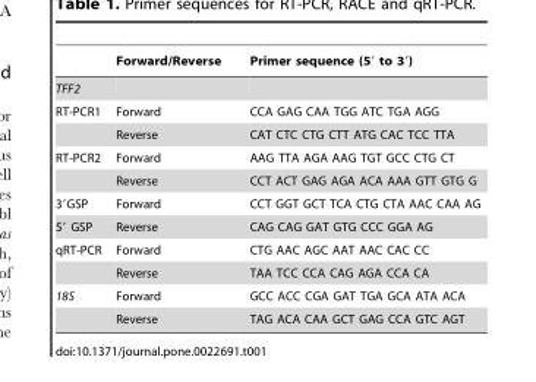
<table><thead><tr><td></td><td>Forward/Reverse</td><td>Primer sequence (5′ to 3′)</td></tr></thead><tbody><tr><td colspan="3">TFF2</td></tr><tr><td rowspan="2">RT-PCR1</td><td>Forward</td><td>CCA GAG CAA TGG ATC TGA AGG</td></tr><tr><td>Reverse</td><td>CAT CTC CTG CTT ATG CAC TCC TTA</td></tr><tr><td rowspan="2">RT-PCR2</td><td>Forward</td><td>AAG TTA AGA AAG TGT GCC CTG CT</td></tr><tr><td>Reverse</td><td>CCT ACT GAG AGA ACA AAA GTT GTG G</td></tr><tr><td>3′GSP</td><td>Forward</td><td>CCT GGT GCT TCA CTG CTA AAC CAA AG</td></tr><tr><td>5′ GSP</td><td>Reverse</td><td>CAG CAG GAT GTG CCC GGA AG</td></tr><tr><td rowspan="2">qRT-PCR</td><td>Forward</td><td>CTG AAC AGC AAT AAC CAC CC</td></tr><tr><td>Reverse</td><td>TAA TCC CCA CAG AGA CCA CA</td></tr><tr><td rowspan="2">18S</td><td>Forward</td><td>GCC ACC CGA GAT TGA GCA ATA ACA</td></tr><tr><td>Reverse</td><td>TAG ACA CAA GCT GAG CCA GTC AGT</td></tr></tbody></table>